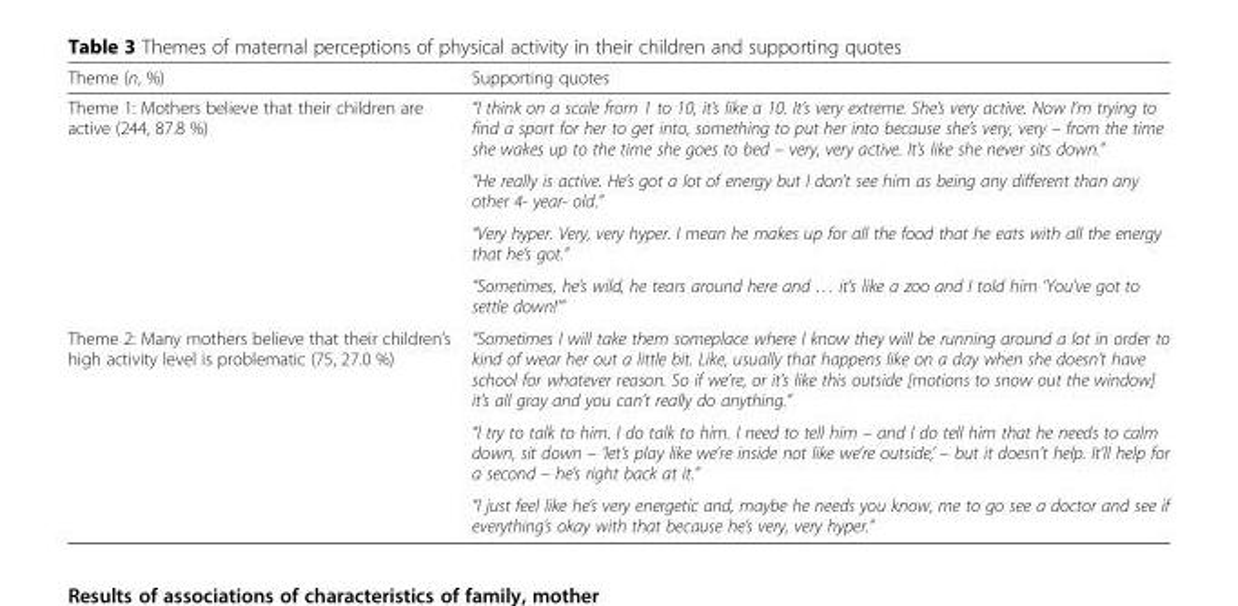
<table><thead><tr><td>Theme (n, %)</td><td>Supporting quotes</td></tr></thead><tbody><tr><td rowspan="4">Theme 1: Mothers believe that their children are active (244, 87.8 %)</td><td>“I think on a scale from 1 to 10, it’s like a 10. It’s very extreme. She’s very active. Now I’m trying to find a sport for her to get into, something to put her into because she’s very, very – from the time she wakes up to the time she goes to bed – very, very active. It’s like she never sits down.”</td></tr><tr><td>“He really is active. He’s got a lot of energy but I don’t see him as being any different than any other 4- year- old.”</td></tr><tr><td>“Very hyper. Very, very hyper. I mean he makes up for all the food that he eats with all the energy that he’s got.”</td></tr><tr><td>“Sometimes, he’s wild, he tears around here and … it’s like a zoo and I told him ‘You’ve got to settle down!’”</td></tr><tr><td rowspan="3">Theme 2: Many mothers believe that their children’s high activity level is problematic (75, 27.0 %)</td><td>“Sometimes I will take them someplace where I know they will be running around a lot in order to kind of wear her out a little bit. Like, usually that happens like on a day when she doesn’t have school for whatever reason. So if we’re, or it’s like this outside [motions to snow out the window] it’s all gray and you can’t really do anything.”</td></tr><tr><td>“I try to talk to him. I do talk to him. I need to tell him – and I do tell him that he needs to calm down, sit down – ‘let’s play like we’re inside not like we’re outside,’ – but it doesn’t help. It’ll help for a second – he’s right back at it.”</td></tr><tr><td>“I just feel like he’s very energetic and, maybe he needs you know, me to go see a doctor and see if everything’s okay with that because he’s very, very hyper.”</td></tr></tbody></table>